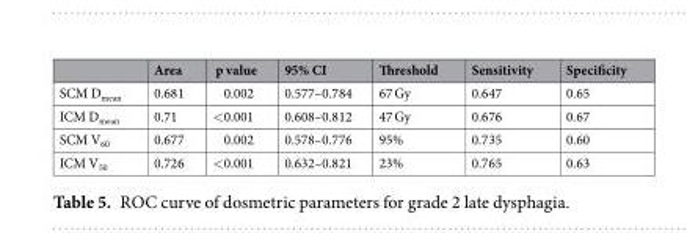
<table><thead><tr><td></td><td>Area</td><td>p value</td><td>95% CI</td><td>Threshold</td><td>Sensitivity</td><td>Specificity</td></tr></thead><tbody><tr><td>SCM D<sub>mean</sub></td><td>0.681</td><td>0.002</td><td>0.577–0.784</td><td>67 Gy</td><td>0.647</td><td>0.65</td></tr><tr><td>ICM D<sub>mean</sub></td><td>0.71</td><td>&lt;0.001</td><td>0.608–0.812</td><td>47 Gy</td><td>0.676</td><td>0.67</td></tr><tr><td>SCM V<sub>60</sub></td><td>0.677</td><td>0.002</td><td>0.578–0.776</td><td>95%</td><td>0.735</td><td>0.60</td></tr><tr><td>ICM V<sub>50</sub></td><td>0.726</td><td>&lt;0.001</td><td>0.632–0.821</td><td>23%</td><td>0.765</td><td>0.63</td></tr></tbody></table>